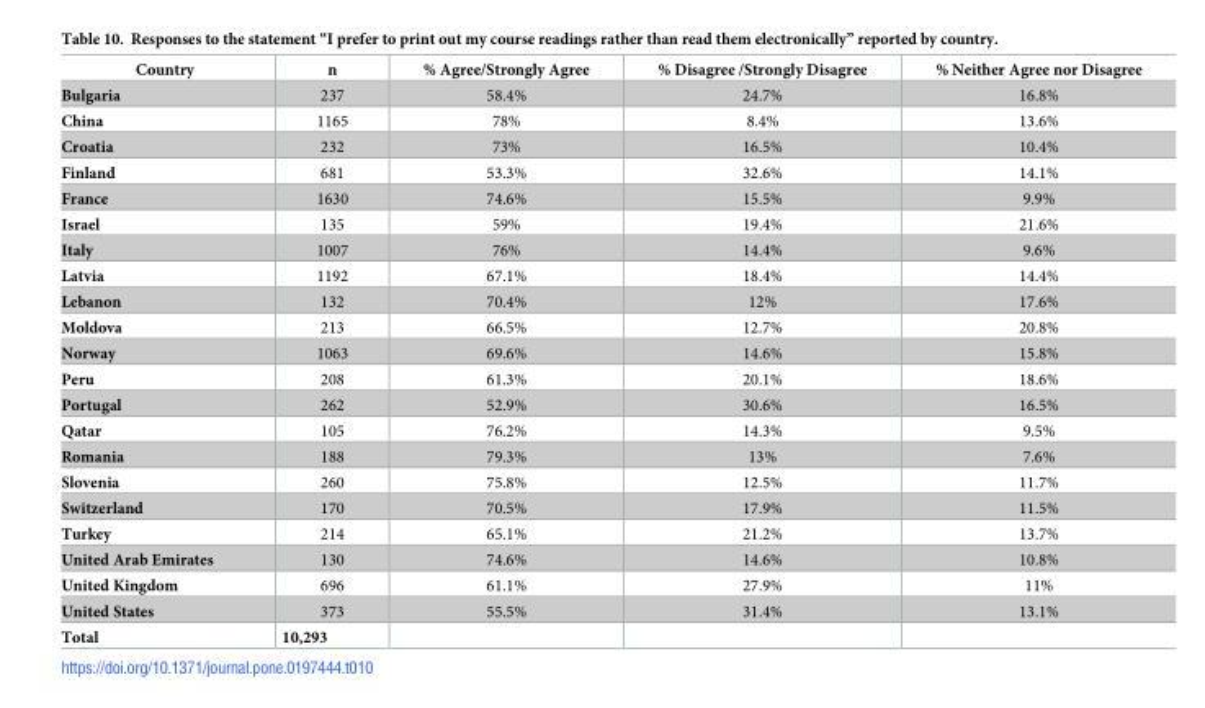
<table><thead><tr><td>Country</td><td>n</td><td>% Agree/Strongly Agree</td><td>% Disagree /Strongly Disagree</td><td>% Neither Agree nor Disagree</td></tr></thead><tbody><tr><td>Bulgaria</td><td>237</td><td>58.4%</td><td>24.7%</td><td>16.8%</td></tr><tr><td>China</td><td>1165</td><td>78%</td><td>8.4%</td><td>13.6%</td></tr><tr><td>Croatia</td><td>232</td><td>73%</td><td>16.5%</td><td>10.4%</td></tr><tr><td>Finland</td><td>681</td><td>53.3%</td><td>32.6%</td><td>14.1%</td></tr><tr><td>France</td><td>1630</td><td>74.6%</td><td>15.5%</td><td>9.9%</td></tr><tr><td>Israel</td><td>135</td><td>59%</td><td>19.4%</td><td>21.6%</td></tr><tr><td>Italy</td><td>1007</td><td>76%</td><td>14.4%</td><td>9.6%</td></tr><tr><td>Latvia</td><td>1192</td><td>67.1%</td><td>18.4%</td><td>14.4%</td></tr><tr><td>Lebanon</td><td>132</td><td>70.4%</td><td>12%</td><td>17.6%</td></tr><tr><td>Moldova</td><td>213</td><td>66.5%</td><td>12.7%</td><td>20.8%</td></tr><tr><td>Norway</td><td>1063</td><td>69.6%</td><td>14.6%</td><td>15.8%</td></tr><tr><td>Peru</td><td>208</td><td>61.3%</td><td>20.1%</td><td>18.6%</td></tr><tr><td>Portugal</td><td>262</td><td>52.9%</td><td>30.6%</td><td>16.5%</td></tr><tr><td>Qatar</td><td>105</td><td>76.2%</td><td>14.3%</td><td>9.5%</td></tr><tr><td>Romania</td><td>188</td><td>79.3%</td><td>13%</td><td>7.6%</td></tr><tr><td>Slovenia</td><td>260</td><td>75.8%</td><td>12.5%</td><td>11.7%</td></tr><tr><td>Switzerland</td><td>170</td><td>70.5%</td><td>17.9%</td><td>11.5%</td></tr><tr><td>Turkey</td><td>214</td><td>65.1%</td><td>21.2%</td><td>13.7%</td></tr><tr><td>United Arab Emirates</td><td>130</td><td>74.6%</td><td>14.6%</td><td>10.8%</td></tr><tr><td>United Kingdom</td><td>696</td><td>61.1%</td><td>27.9%</td><td>11%</td></tr><tr><td>United States</td><td>373</td><td>55.5%</td><td>31.4%</td><td>13.1%</td></tr><tr><td>Total</td><td>10,293</td><td></td><td></td><td></td></tr></tbody></table>